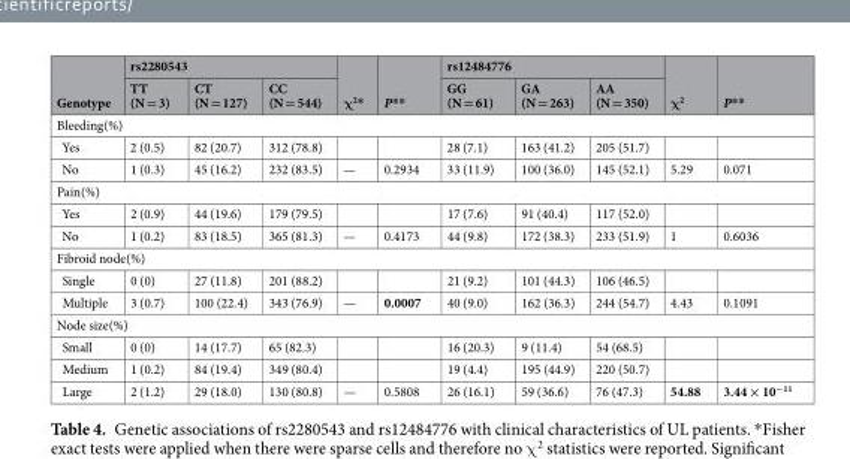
<table><thead><tr><td rowspan="2">Genotype</td><td colspan="3">rs2280543</td><td rowspan="2">χ<sup>2</sup>*</td><td rowspan="2">P**</td><td colspan="3">rs12484776</td><td rowspan="2">χ<sup>2</sup></td><td rowspan="2">P**</td></tr><tr><td>TT (N = 3)</td><td>CT (N = 127)</td><td>CC (N = 544)</td><td>GG (N = 61)</td><td>GA (N = 263)</td><td>AA (N = 350)</td></tr></thead><tbody><tr><td colspan="11">Bleeding(%)</td></tr><tr><td>Yes</td><td>2 (0.5)</td><td>82 (20.7)</td><td>312 (78.8)</td><td></td><td></td><td>28 (7.1)</td><td>163 (41.2)</td><td>205 (51.7)</td><td></td><td></td></tr><tr><td>No</td><td>1 (0.3)</td><td>45 (16.2)</td><td>232 (83.5)</td><td>—</td><td>0.2934</td><td>33 (11.9)</td><td>100 (36.0)</td><td>145 (52.1)</td><td>5.29</td><td>0.071</td></tr><tr><td colspan="11">Pain(%)</td></tr><tr><td>Yes</td><td>2 (0.9)</td><td>44 (19.6)</td><td>179 (79.5)</td><td></td><td></td><td>17 (7.6)</td><td>91 (40.4)</td><td>117 (52.0)</td><td></td><td></td></tr><tr><td>No</td><td>1 (0.2)</td><td>83 (18.5)</td><td>365 (81.3)</td><td>—</td><td>0.4173</td><td>44 (9.8)</td><td>172 (38.3)</td><td>233 (51.9)</td><td>1</td><td>0.6036</td></tr><tr><td colspan="11">Fibroid node(%)</td></tr><tr><td>Single</td><td>0 (0)</td><td>27 (11.8)</td><td>201 (88.2)</td><td></td><td></td><td>21 (9.2)</td><td>101 (44.3)</td><td>106 (46.5)</td><td></td><td></td></tr><tr><td>Multiple</td><td>3 (0.7)</td><td>100 (22.4)</td><td>343 (76.9)</td><td>—</td><td>0.0007</td><td>40 (9.0)</td><td>162 (36.3)</td><td>244 (54.7)</td><td>4.43</td><td>0.1091</td></tr><tr><td colspan="11">Node size(%)</td></tr><tr><td>Small</td><td>0 (0)</td><td>14 (17.7)</td><td>65 (82.3)</td><td></td><td></td><td>16 (20.3)</td><td>9 (11.4)</td><td>54 (68.5)</td><td></td><td></td></tr><tr><td>Medium</td><td>1 (0.2)</td><td>84 (19.4)</td><td>349 (80.4)</td><td></td><td></td><td>19 (4.4)</td><td>195 (44.9)</td><td>220 (50.7)</td><td></td><td></td></tr><tr><td>Large</td><td>2 (1.2)</td><td>29 (18.0)</td><td>130 (80.8)</td><td>—</td><td>0.5808</td><td>26 (16.1)</td><td>59 (36.6)</td><td>76 (47.3)</td><td>54.88</td><td>3.44 × 10<sup>−11</sup></td></tr></tbody></table>